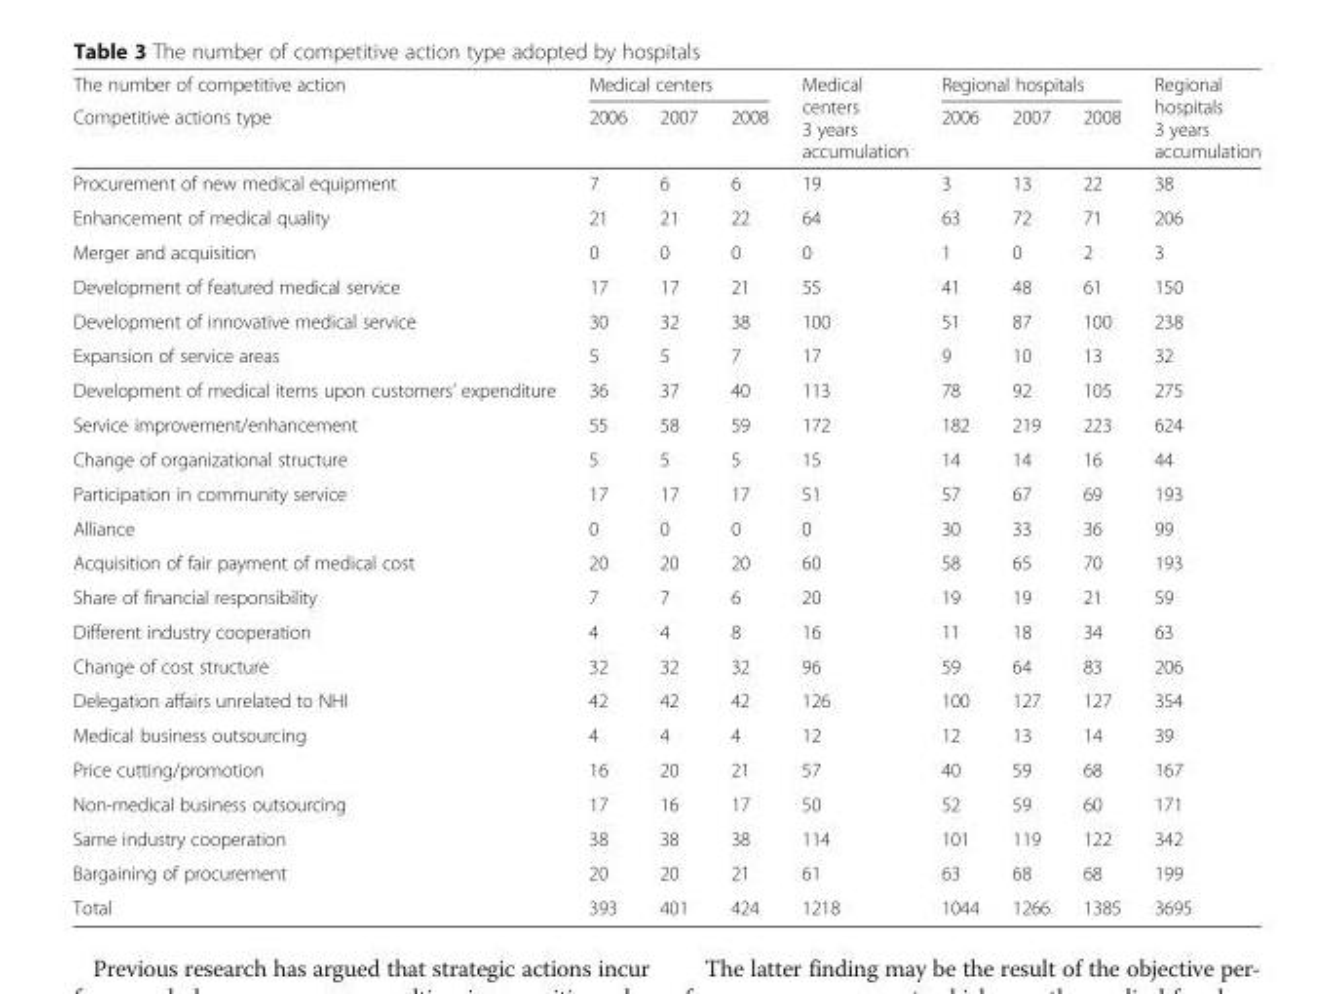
<table><thead><tr><td rowspan="2">The number of competitive action Competitive actions type</td><td colspan="3">Medical centers</td><td rowspan="2">Medical centers 3 years accumulation</td><td colspan="3">Regional hospitals</td><td rowspan="2">Regional hospitals 3 years accumulation</td></tr><tr><td>2006</td><td>2007</td><td>2008</td><td>2006</td><td>2007</td><td>2008</td></tr></thead><tbody><tr><td>Procurement of new medical equipment</td><td>7</td><td>6</td><td>6</td><td>19</td><td>3</td><td>13</td><td>22</td><td>38</td></tr><tr><td>Enhancement of medical quality</td><td>21</td><td>21</td><td>22</td><td>64</td><td>63</td><td>72</td><td>71</td><td>206</td></tr><tr><td>Merger and acquisition</td><td>0</td><td>0</td><td>0</td><td>0</td><td>1</td><td>0</td><td>2</td><td>3</td></tr><tr><td>Development of featured medical service</td><td>17</td><td>17</td><td>21</td><td>55</td><td>41</td><td>48</td><td>61</td><td>150</td></tr><tr><td>Development of innovative medical service</td><td>30</td><td>32</td><td>38</td><td>100</td><td>51</td><td>87</td><td>100</td><td>238</td></tr><tr><td>Expansion of service areas</td><td>5</td><td>5</td><td>7</td><td>17</td><td>9</td><td>10</td><td>13</td><td>32</td></tr><tr><td>Development of medical items upon customers’ expenditure</td><td>36</td><td>37</td><td>40</td><td>113</td><td>78</td><td>92</td><td>105</td><td>275</td></tr><tr><td>Service improvement/enhancement</td><td>55</td><td>58</td><td>59</td><td>172</td><td>182</td><td>219</td><td>223</td><td>624</td></tr><tr><td>Change of organizational structure</td><td>5</td><td>5</td><td>5</td><td>15</td><td>14</td><td>14</td><td>16</td><td>44</td></tr><tr><td>Participation in community service</td><td>17</td><td>17</td><td>17</td><td>51</td><td>57</td><td>67</td><td>69</td><td>193</td></tr><tr><td>Alliance</td><td>0</td><td>0</td><td>0</td><td>0</td><td>30</td><td>33</td><td>36</td><td>99</td></tr><tr><td>Acquisition of fair payment of medical cost</td><td>20</td><td>20</td><td>20</td><td>60</td><td>58</td><td>65</td><td>70</td><td>193</td></tr><tr><td>Share of financial responsibility</td><td>7</td><td>7</td><td>6</td><td>20</td><td>19</td><td>19</td><td>21</td><td>59</td></tr><tr><td>Different industry cooperation</td><td>4</td><td>4</td><td>8</td><td>16</td><td>11</td><td>18</td><td>34</td><td>63</td></tr><tr><td>Change of cost structure</td><td>32</td><td>32</td><td>32</td><td>96</td><td>59</td><td>64</td><td>83</td><td>206</td></tr><tr><td>Delegation affairs unrelated to NHI</td><td>42</td><td>42</td><td>42</td><td>126</td><td>100</td><td>127</td><td>127</td><td>354</td></tr><tr><td>Medical business outsourcing</td><td>4</td><td>4</td><td>4</td><td>12</td><td>12</td><td>13</td><td>14</td><td>39</td></tr><tr><td>Price cutting/promotion</td><td>16</td><td>20</td><td>21</td><td>57</td><td>40</td><td>59</td><td>68</td><td>167</td></tr><tr><td>Non-medical business outsourcing</td><td>17</td><td>16</td><td>17</td><td>50</td><td>52</td><td>59</td><td>60</td><td>171</td></tr><tr><td>Same industry cooperation</td><td>38</td><td>38</td><td>38</td><td>114</td><td>101</td><td>119</td><td>122</td><td>342</td></tr><tr><td>Bargaining of procurement</td><td>20</td><td>20</td><td>21</td><td>61</td><td>63</td><td>68</td><td>68</td><td>199</td></tr><tr><td>Total</td><td>393</td><td>401</td><td>424</td><td>1218</td><td>1044</td><td>1266</td><td>1385</td><td>3695</td></tr></tbody></table>